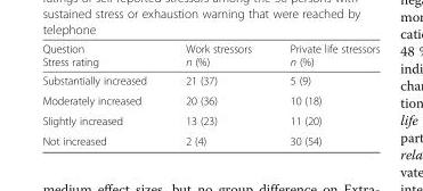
<table><thead><tr><td>Question Stress rating</td><td>Work stressors n (%)</td><td>Private life stressors n (%)</td></tr></thead><tbody><tr><td>Substantially increased</td><td>21 (37)</td><td>5 (9)</td></tr><tr><td>Moderately increased</td><td>20 (36)</td><td>10 (18)</td></tr><tr><td>Slightly increased</td><td>13 (23)</td><td>11 (20)</td></tr><tr><td>Not increased</td><td>2 (4)</td><td>30 (54)</td></tr></tbody></table>